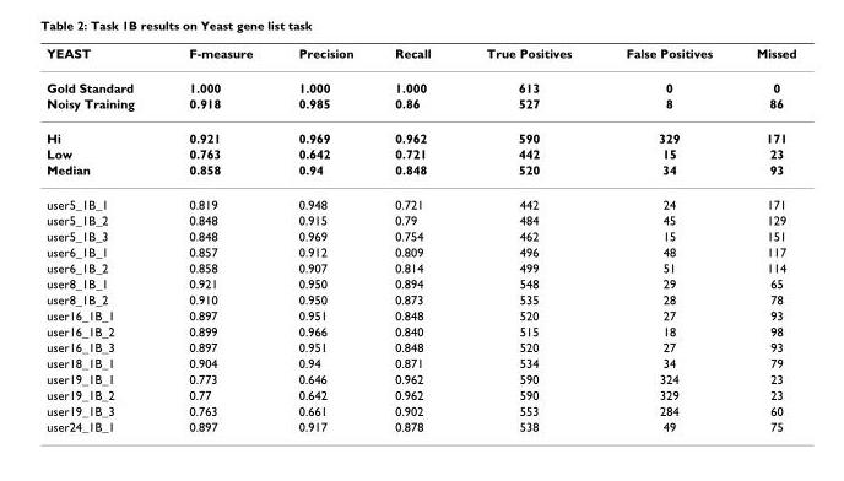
<table><thead><tr><td>YEAST</td><td>F-measure</td><td>Precision</td><td>Recall</td><td>True Positives</td><td>False Positives</td><td>Missed</td></tr></thead><tbody><tr><td>Gold Standard</td><td>1.000</td><td>1.000</td><td>1.000</td><td>613</td><td>0</td><td>0</td></tr><tr><td>Noisy Training</td><td>0.918</td><td>0.985</td><td>0.86</td><td>527</td><td>8</td><td>86</td></tr><tr><td>Hi</td><td>0.921</td><td>0.969</td><td>0.962</td><td>590</td><td>329</td><td>171</td></tr><tr><td>Low</td><td>0.763</td><td>0.642</td><td>0.721</td><td>442</td><td>15</td><td>23</td></tr><tr><td>Median</td><td>0.858</td><td>0.94</td><td>0.848</td><td>520</td><td>34</td><td>93</td></tr><tr><td>user5_1B_1</td><td>0.819</td><td>0.948</td><td>0.721</td><td>442</td><td>24</td><td>171</td></tr><tr><td>user5_1B_2</td><td>0.848</td><td>0.915</td><td>0.79</td><td>484</td><td>45</td><td>129</td></tr><tr><td>user5_1B_3</td><td>0.848</td><td>0.969</td><td>0.754</td><td>462</td><td>15</td><td>151</td></tr><tr><td>user6_1B_1</td><td>0.857</td><td>0.912</td><td>0.809</td><td>496</td><td>48</td><td>117</td></tr><tr><td>user6_1B_2</td><td>0.858</td><td>0.907</td><td>0.814</td><td>499</td><td>51</td><td>114</td></tr><tr><td>user8_1B_1</td><td>0.921</td><td>0.950</td><td>0.894</td><td>548</td><td>29</td><td>65</td></tr><tr><td>user8_1B_2</td><td>0.910</td><td>0.950</td><td>0.873</td><td>535</td><td>28</td><td>78</td></tr><tr><td>user16_1B_1</td><td>0.897</td><td>0.951</td><td>0.848</td><td>520</td><td>27</td><td>93</td></tr><tr><td>user16_1B_2</td><td>0.899</td><td>0.966</td><td>0.840</td><td>515</td><td>18</td><td>98</td></tr><tr><td>user16_1B_3</td><td>0.897</td><td>0.951</td><td>0.848</td><td>520</td><td>27</td><td>93</td></tr><tr><td>user18_1B_1</td><td>0.904</td><td>0.94</td><td>0.871</td><td>534</td><td>34</td><td>79</td></tr><tr><td>user19_1B_1</td><td>0.773</td><td>0.646</td><td>0.962</td><td>590</td><td>324</td><td>23</td></tr><tr><td>user19_1B_2</td><td>0.77</td><td>0.642</td><td>0.962</td><td>590</td><td>329</td><td>23</td></tr><tr><td>user19_1B_3</td><td>0.763</td><td>0.661</td><td>0.902</td><td>553</td><td>284</td><td>60</td></tr><tr><td>user24_1B_1</td><td>0.897</td><td>0.917</td><td>0.878</td><td>538</td><td>49</td><td>75</td></tr></tbody></table>